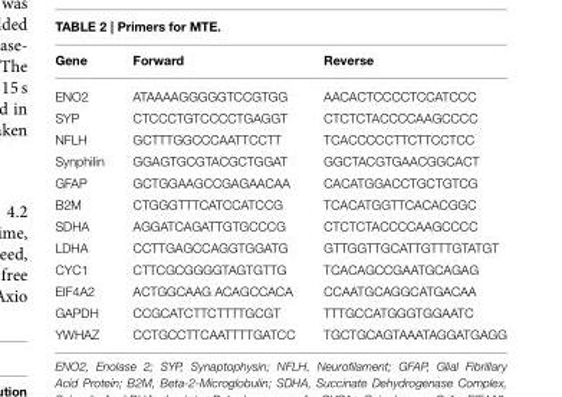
<table><thead><tr><td>Gene</td><td>Forward</td><td>Reverse</td></tr></thead><tbody><tr><td>ENO2</td><td>ATAAAAGGGGGTCCGTGG</td><td>AACACTCCCCTCCATCCC</td></tr><tr><td>SYP</td><td>CTCCCTGTCCCCTGAGGT</td><td>CTCTCTACCCCAAGCCCC</td></tr><tr><td>NFLH</td><td>GCTTTGGCCCAATTCCTT</td><td>TCACCCCCTTCTTCCTCC</td></tr><tr><td>Synphilin</td><td>GGAGTGCGTACGCTGGAT</td><td>GGCTACGTGAACGGCACT</td></tr><tr><td>GFAP</td><td>GCTGGAAGCCGAGAACAA</td><td>CACATGGACCTGCTGTCG</td></tr><tr><td>B2M</td><td>CTGGGTTTCATCCATCCG</td><td>TCACATGGTTCACACGGC</td></tr><tr><td>SDHA</td><td>AGGATCAGATTGTGCCCG</td><td>CTCTCTACCCCAAGCCCC</td></tr><tr><td>LDHA</td><td>CCTTGAGCCAGGTGGATG</td><td>GTTGGTTGCATTGTTTGTATGT</td></tr><tr><td>CYC1</td><td>CTTCGCGGGGTAGTGTTG</td><td>TCACAGCCGAATGCAGAG</td></tr><tr><td>EIF4A2</td><td>ACTGGCAAG ACAGCCACA</td><td>CCAATGCAGGCATGACAA</td></tr><tr><td>GAPDH</td><td>CCGCATCTTCTTTTGCGT</td><td>TTTGCCATGGGTGGAATC</td></tr><tr><td>YWHAZ</td><td>CCTGCCTTCAATTTTGATCC</td><td>TGCTGCAGTAAATAGGATGAGG</td></tr></tbody></table>